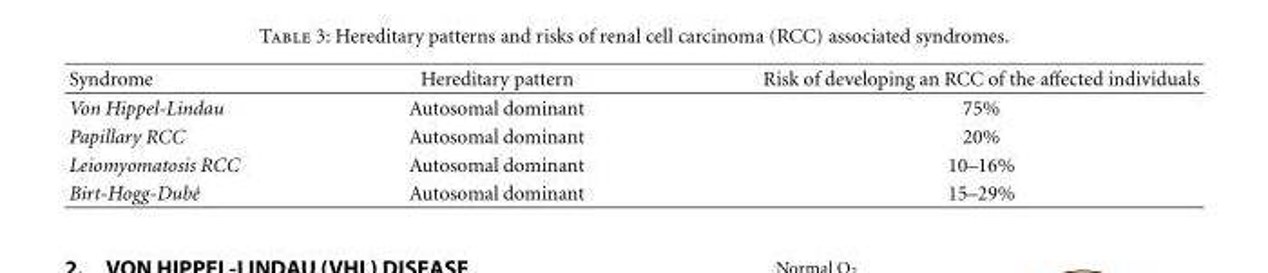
<table><thead><tr><td>Syndrome</td><td>Hereditary pattern</td><td>Risk of developing an RCC of the affected individuals</td></tr></thead><tbody><tr><td>Von Hippel-Lindau</td><td>Autosomal dominant</td><td>75%</td></tr><tr><td>Papillary RCC</td><td>Autosomal dominant</td><td>20%</td></tr><tr><td>Leiomyomatosis RCC</td><td>Autosomal dominant</td><td>10–16%</td></tr><tr><td>Birt-Hogg-Dub´e</td><td>Autosomal dominant</td><td>15–29%</td></tr></tbody></table>